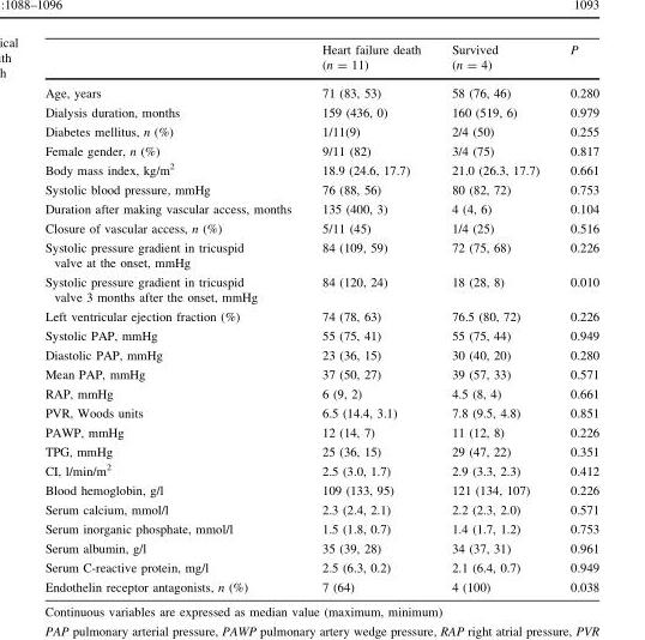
<table><thead><tr><td></td><td>Heart failure death (n = 11)</td><td>Survived (n = 4)</td><td>P</td></tr></thead><tbody><tr><td>Age, years</td><td>71 (83, 53)</td><td>58 (76, 46)</td><td>0.280</td></tr><tr><td>Dialysis duration, months</td><td>159 (436, 0)</td><td>160 (519, 6)</td><td>0.979</td></tr><tr><td>Diabetes mellitus, n (%)</td><td>1/11(9)</td><td>2/4 (50)</td><td>0.255</td></tr><tr><td>Female gender, n (%)</td><td>9/11 (82)</td><td>3/4 (75)</td><td>0.817</td></tr><tr><td>Body mass index, kg/m<sup>2</sup></td><td>18.9 (24.6, 17.7)</td><td>21.0 (26.3, 17.7)</td><td>0.661</td></tr><tr><td>Systolic blood pressure, mmHg</td><td>76 (88, 56)</td><td>80 (82, 72)</td><td>0.753</td></tr><tr><td>Duration after making vascular access, months</td><td>135 (400, 3)</td><td>4 (4, 6)</td><td>0.104</td></tr><tr><td>Closure of vascular access, n (%)</td><td>5/11 (45)</td><td>1/4 (25)</td><td>0.516</td></tr><tr><td>Systolic pressure gradient in tricuspid valve at the onset, mmHg</td><td>84 (109, 59)</td><td>72 (75, 68)</td><td>0.226</td></tr><tr><td>Systolic pressure gradient in tricuspid valve 3 months after the onset, mmHg</td><td>84 (120, 24)</td><td>18 (28, 8)</td><td>0.010</td></tr><tr><td>Left ventricular ejection fraction (%)</td><td>74 (78, 63)</td><td>76.5 (80, 72)</td><td>0.226</td></tr><tr><td>Systolic PAP, mmHg</td><td>55 (75, 41)</td><td>55 (75, 44)</td><td>0.949</td></tr><tr><td>Diastolic PAP, mmHg</td><td>23 (36, 15)</td><td>30 (40, 20)</td><td>0.280</td></tr><tr><td>Mean PAP, mmHg</td><td>37 (50, 27)</td><td>39 (57, 33)</td><td>0.571</td></tr><tr><td>RAP, mmHg</td><td>6 (9, 2)</td><td>4.5 (8, 4)</td><td>0.661</td></tr><tr><td>PVR, Woods units</td><td>6.5 (14.4, 3.1)</td><td>7.8 (9.5, 4.8)</td><td>0.851</td></tr><tr><td>PAWP, mmHg</td><td>12 (14, 7)</td><td>11 (12, 8)</td><td>0.226</td></tr><tr><td>TPG, mmHg</td><td>25 (36, 15)</td><td>29 (47, 22)</td><td>0.351</td></tr><tr><td>CI, l/min/m<sup>2</sup></td><td>2.5 (3.0, 1.7)</td><td>2.9 (3.3, 2.3)</td><td>0.412</td></tr><tr><td>Blood hemoglobin, g/l</td><td>109 (133, 95)</td><td>121 (134, 107)</td><td>0.226</td></tr><tr><td>Serum calcium, mmol/l</td><td>2.3 (2.4, 2.1)</td><td>2.2 (2.3, 2.0)</td><td>0.571</td></tr><tr><td>Serum inorganic phosphate, mmol/l</td><td>1.5 (1.8, 0.7)</td><td>1.4 (1.7, 1.2)</td><td>0.753</td></tr><tr><td>Serum albumin, g/l</td><td>35 (39, 28)</td><td>34 (37, 31)</td><td>0.961</td></tr><tr><td>Serum C-reactive protein, mg/l</td><td>2.5 (6.3, 0.2)</td><td>2.1 (6.4, 0.7)</td><td>0.949</td></tr><tr><td>Endothelin receptor antagonists, n (%)</td><td>7 (64)</td><td>4 (100)</td><td>0.038</td></tr></tbody></table>